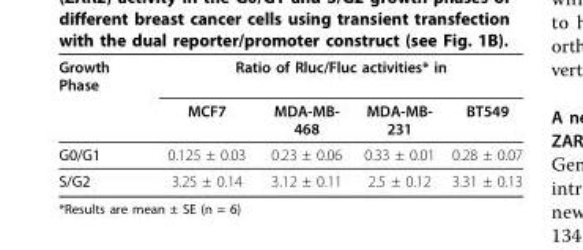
<table><thead><tr><td rowspan="2">Growth Phase</td><td colspan="4">Ratio of Rluc/Fluc activities* in</td></tr><tr><td>MCF7</td><td>MDA-MB- 468</td><td>MDA-MB- 231</td><td>BT549</td></tr></thead><tbody><tr><td>G0/G1</td><td>0.125 ± 0.03</td><td>0.23 ± 0.06</td><td>0.33 ± 0.01</td><td>0.28 ± 0.07</td></tr><tr><td>S/G2</td><td>3.25 ± 0.14</td><td>3.12 ± 0.11</td><td>2.5 ± 0.12</td><td>3.31 ± 0.13</td></tr></tbody></table>